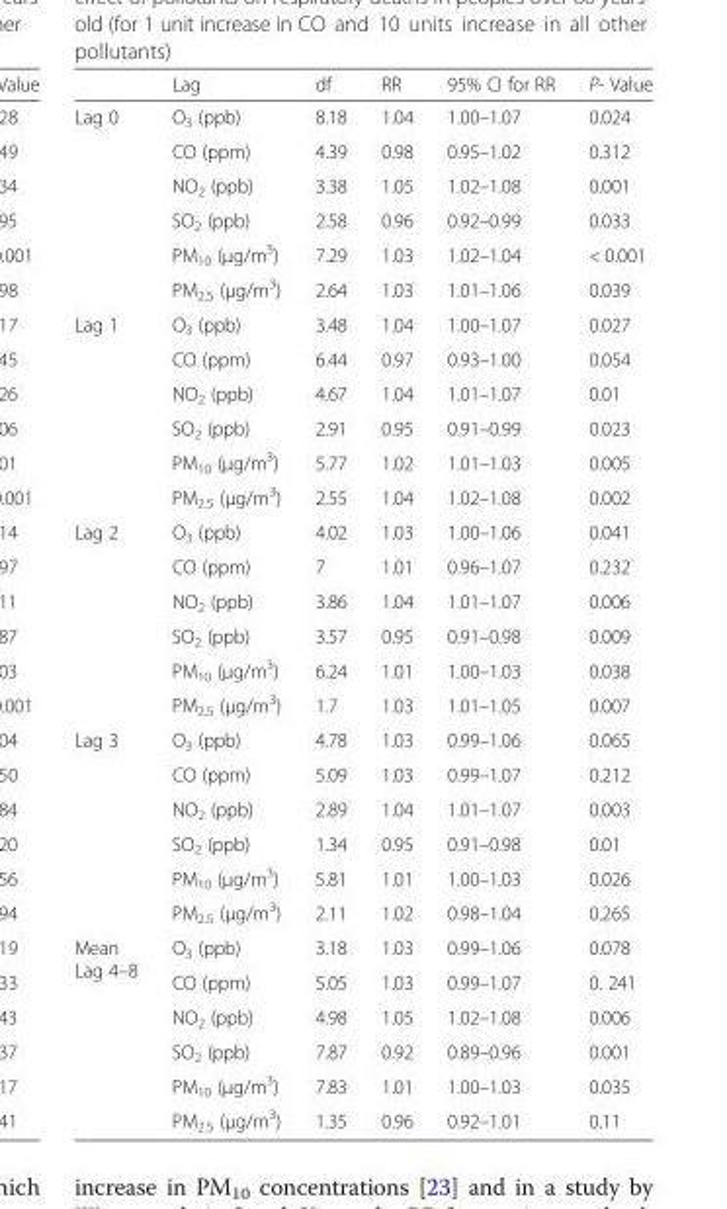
<table><thead><tr><td></td><td>Lag</td><td>df</td><td>RR</td><td>95% CI for RR</td><td>P- Value</td></tr></thead><tbody><tr><td rowspan="6">Lag 0</td><td>O<sub>3</sub> (ppb)</td><td>8.18</td><td>1.04</td><td>1.00–1.07</td><td>0.024</td></tr><tr><td>CO (ppm)</td><td>4.39</td><td>0.98</td><td>0.95–1.02</td><td>0.312</td></tr><tr><td>NO<sub>2</sub> (ppb)</td><td>3.38</td><td>1.05</td><td>1.02–1.08</td><td>0.001</td></tr><tr><td>SO<sub>2</sub> (ppb)</td><td>2.58</td><td>0.96</td><td>0.92–0.99</td><td>0.033</td></tr><tr><td>PM<sub>10</sub> (μg/m<sup>3</sup>)</td><td>7.29</td><td>1.03</td><td>1.02–1.04</td><td>&lt; 0.001</td></tr><tr><td>PM<sub>2.5</sub> (μg/m<sup>3</sup>)</td><td>2.64</td><td>1.03</td><td>1.01–1.06</td><td>0.039</td></tr><tr><td rowspan="6">Lag 1</td><td>O<sub>3</sub> (ppb)</td><td>3.48</td><td>1.04</td><td>1.00–1.07</td><td>0.027</td></tr><tr><td>CO (ppm)</td><td>6.44</td><td>0.97</td><td>0.93–1.00</td><td>0.054</td></tr><tr><td>NO<sub>2</sub> (ppb)</td><td>4.67</td><td>1.04</td><td>1.01–1.07</td><td>0.01</td></tr><tr><td>SO<sub>2</sub> (ppb)</td><td>2.91</td><td>0.95</td><td>0.91–0.99</td><td>0.023</td></tr><tr><td>PM<sub>10</sub> (μg/m<sup>3</sup>)</td><td>5.77</td><td>1.02</td><td>1.01–1.03</td><td>0.005</td></tr><tr><td>PM<sub>2.5</sub> (μg/m<sup>3</sup>)</td><td>2.55</td><td>1.04</td><td>1.02–1.08</td><td>0.002</td></tr><tr><td rowspan="6">Lag 2</td><td>O<sub>3</sub> (ppb)</td><td>4.02</td><td>1.03</td><td>1.00–1.06</td><td>0.041</td></tr><tr><td>CO (ppm)</td><td>7</td><td>1.01</td><td>0.96–1.07</td><td>0.232</td></tr><tr><td>NO<sub>2</sub> (ppb)</td><td>3.86</td><td>1.04</td><td>1.01–1.07</td><td>0.006</td></tr><tr><td>SO<sub>2</sub> (ppb)</td><td>3.57</td><td>0.95</td><td>0.91–0.98</td><td>0.009</td></tr><tr><td>PM<sub>10</sub> (μg/m<sup>3</sup>)</td><td>6.24</td><td>1.01</td><td>1.00–1.03</td><td>0.038</td></tr><tr><td>PM<sub>2.5</sub> (μg/m<sup>3</sup>)</td><td>1.7</td><td>1.03</td><td>1.01–1.05</td><td>0.007</td></tr><tr><td rowspan="6">Lag 3</td><td>O<sub>3</sub> (ppb)</td><td>4.78</td><td>1.03</td><td>0.99–1.06</td><td>0.065</td></tr><tr><td>CO (ppm)</td><td>5.09</td><td>1.03</td><td>0.99–1.07</td><td>0.212</td></tr><tr><td>NO<sub>2</sub> (ppb)</td><td>2.89</td><td>1.04</td><td>1.01–1.07</td><td>0.003</td></tr><tr><td>SO<sub>2</sub> (ppb)</td><td>1.34</td><td>0.95</td><td>0.91–0.98</td><td>0.01</td></tr><tr><td>PM<sub>10</sub> (μg/m<sup>3</sup>)</td><td>5.81</td><td>1.01</td><td>1.00–1.03</td><td>0.026</td></tr><tr><td>PM<sub>2.5</sub> (μg/m<sup>3</sup>)</td><td>2.11</td><td>1.02</td><td>0.98–1.04</td><td>0.265</td></tr><tr><td rowspan="6">Mean Lag 4–8</td><td>O<sub>3</sub> (ppb)</td><td>3.18</td><td>1.03</td><td>0.99–1.06</td><td>0.078</td></tr><tr><td>CO (ppm)</td><td>5.05</td><td>1.03</td><td>0.99–1.07</td><td>0. 241</td></tr><tr><td>NO<sub>2</sub> (ppb)</td><td>4.98</td><td>1.05</td><td>1.02–1.08</td><td>0.006</td></tr><tr><td>SO<sub>2</sub> (ppb)</td><td>7.87</td><td>0.92</td><td>0.89–0.96</td><td>0.001</td></tr><tr><td>PM<sub>10</sub> (μg/m<sup>3</sup>)</td><td>7.83</td><td>1.01</td><td>1.00–1.03</td><td>0.035</td></tr><tr><td>PM<sub>2.5</sub> (μg/m<sup>3</sup>)</td><td>1.35</td><td>0.96</td><td>0.92–1.01</td><td>0.11</td></tr></tbody></table>